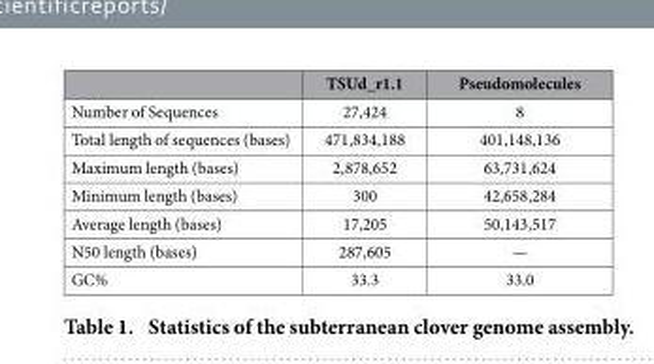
<table><thead><tr><td></td><td>TSUd_r1.1</td><td>Pseudomolecules</td></tr></thead><tbody><tr><td>Number of Sequences</td><td>27,424</td><td>8</td></tr><tr><td>Total length of sequences (bases)</td><td>471,834,188</td><td>401,148,136</td></tr><tr><td>Maximum length (bases)</td><td>2,878,652</td><td>63,731,624</td></tr><tr><td>Minimum length (bases)</td><td>300</td><td>42,658,284</td></tr><tr><td>Average length (bases)</td><td>17,205</td><td>50,143,517</td></tr><tr><td>N50 length (bases)</td><td>287,605</td><td>—</td></tr><tr><td>GC%</td><td>33.3</td><td>33.0</td></tr></tbody></table>